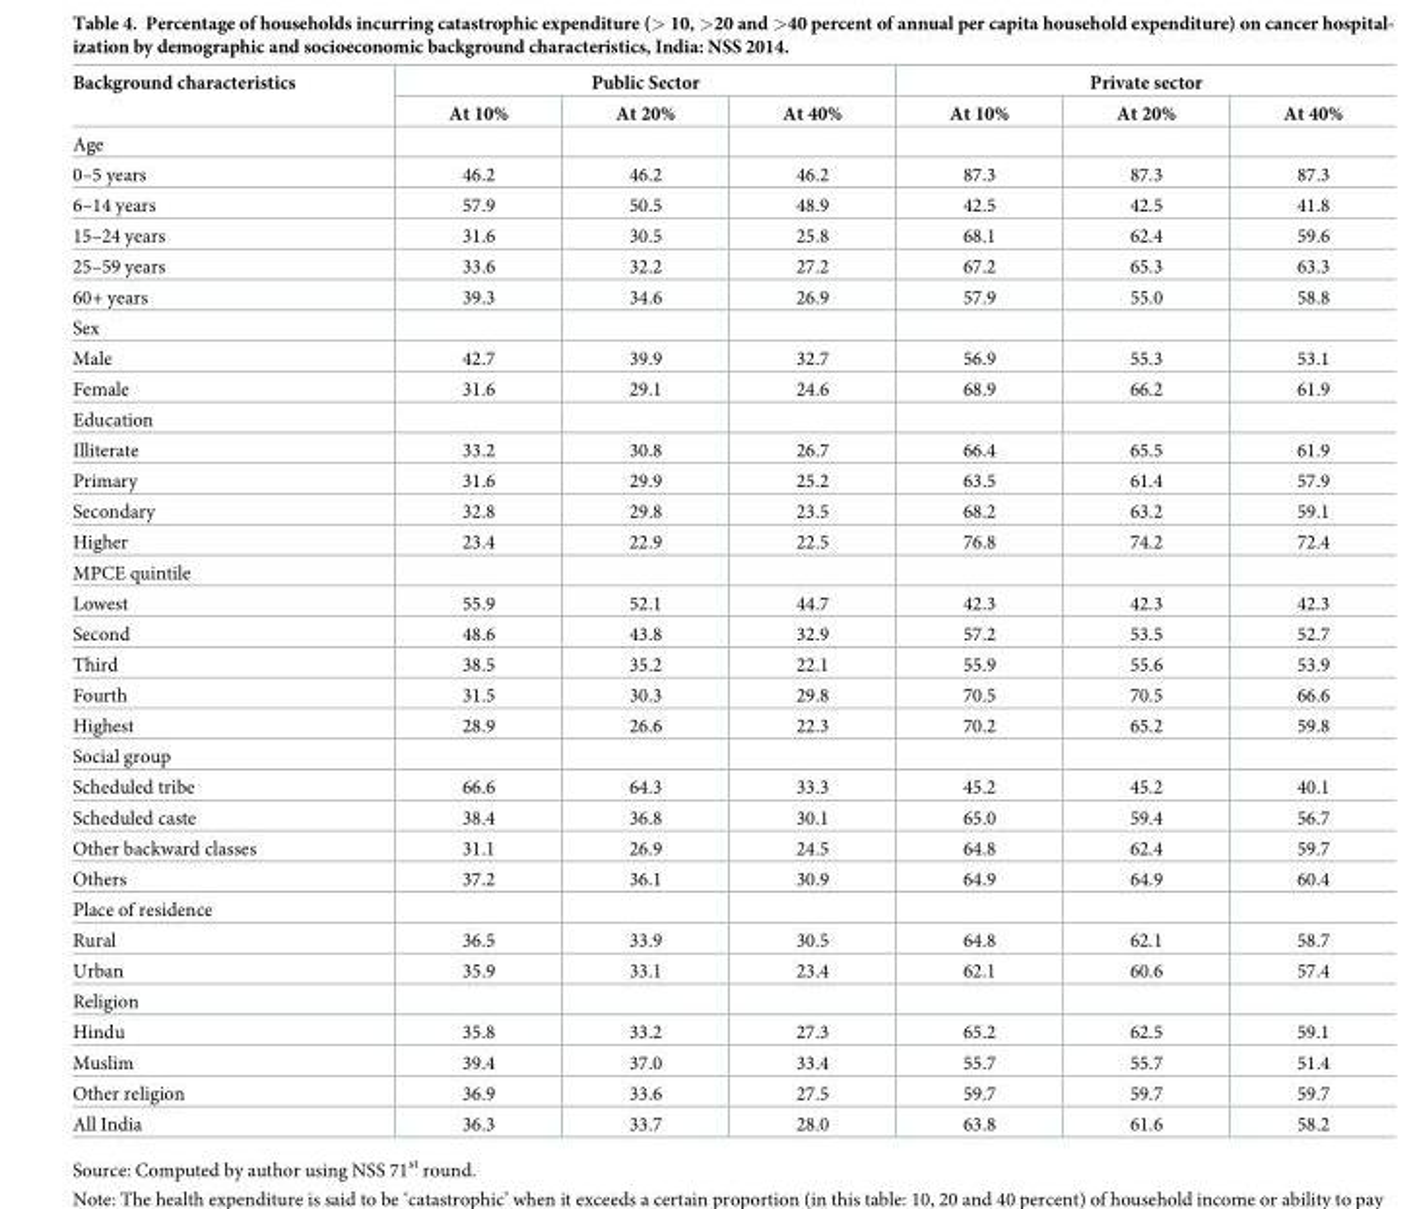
<table><thead><tr><td rowspan="2">Background characteristics</td><td colspan="3">Public Sector</td><td colspan="3">Private sector</td></tr><tr><td>At 10%</td><td>At 20%</td><td>At 40%</td><td>At 10%</td><td>At 20%</td><td>At 40%</td></tr></thead><tbody><tr><td colspan="7">Age</td></tr><tr><td>0–5 years</td><td>46.2</td><td>46.2</td><td>46.2</td><td>87.3</td><td>87.3</td><td>87.3</td></tr><tr><td>6–14 years</td><td>57.9</td><td>50.5</td><td>48.9</td><td>42.5</td><td>42.5</td><td>41.8</td></tr><tr><td>15–24 years</td><td>31.6</td><td>30.5</td><td>25.8</td><td>68.1</td><td>62.4</td><td>59.6</td></tr><tr><td>25–59 years</td><td>33.6</td><td>32.2</td><td>27.2</td><td>67.2</td><td>65.3</td><td>63.3</td></tr><tr><td>60+ years</td><td>39.3</td><td>34.6</td><td>26.9</td><td>57.9</td><td>55.0</td><td>58.8</td></tr><tr><td colspan="7">Sex</td></tr><tr><td>Male</td><td>42.7</td><td>39.9</td><td>32.7</td><td>56.9</td><td>55.3</td><td>53.1</td></tr><tr><td>Female</td><td>31.6</td><td>29.1</td><td>24.6</td><td>68.9</td><td>66.2</td><td>61.9</td></tr><tr><td colspan="7">Education</td></tr><tr><td>Illiterate</td><td>33.2</td><td>30.8</td><td>26.7</td><td>66.4</td><td>65.5</td><td>61.9</td></tr><tr><td>Primary</td><td>31.6</td><td>29.9</td><td>25.2</td><td>63.5</td><td>61.4</td><td>57.9</td></tr><tr><td>Secondary</td><td>32.8</td><td>29.8</td><td>23.5</td><td>68.2</td><td>63.2</td><td>59.1</td></tr><tr><td>Higher</td><td>23.4</td><td>22.9</td><td>22.5</td><td>76.8</td><td>74.2</td><td>72.4</td></tr><tr><td colspan="7">MPCE quintile</td></tr><tr><td>Lowest</td><td>55.9</td><td>52.1</td><td>44.7</td><td>42.3</td><td>42.3</td><td>42.3</td></tr><tr><td>Second</td><td>48.6</td><td>43.8</td><td>32.9</td><td>57.2</td><td>53.5</td><td>52.7</td></tr><tr><td>Third</td><td>38.5</td><td>35.2</td><td>22.1</td><td>55.9</td><td>55.6</td><td>53.9</td></tr><tr><td>Fourth</td><td>31.5</td><td>30.3</td><td>29.8</td><td>70.5</td><td>70.5</td><td>66.6</td></tr><tr><td>Highest</td><td>28.9</td><td>26.6</td><td>22.3</td><td>70.2</td><td>65.2</td><td>59.8</td></tr><tr><td colspan="7">Social group</td></tr><tr><td>Scheduled tribe</td><td>66.6</td><td>64.3</td><td>33.3</td><td>45.2</td><td>45.2</td><td>40.1</td></tr><tr><td>Scheduled caste</td><td>38.4</td><td>36.8</td><td>30.1</td><td>65.0</td><td>59.4</td><td>56.7</td></tr><tr><td>Other backward classes</td><td>31.1</td><td>26.9</td><td>24.5</td><td>64.8</td><td>62.4</td><td>59.7</td></tr><tr><td>Others</td><td>37.2</td><td>36.1</td><td>30.9</td><td>64.9</td><td>64.9</td><td>60.4</td></tr><tr><td colspan="7">Place of residence</td></tr><tr><td>Rural</td><td>36.5</td><td>33.9</td><td>30.5</td><td>64.8</td><td>62.1</td><td>58.7</td></tr><tr><td>Urban</td><td>35.9</td><td>33.1</td><td>23.4</td><td>62.1</td><td>60.6</td><td>57.4</td></tr><tr><td colspan="7">Religion</td></tr><tr><td>Hindu</td><td>35.8</td><td>33.2</td><td>27.3</td><td>65.2</td><td>62.5</td><td>59.1</td></tr><tr><td>Muslim</td><td>39.4</td><td>37.0</td><td>33.4</td><td>55.7</td><td>55.7</td><td>51.4</td></tr><tr><td>Other religion</td><td>36.9</td><td>33.6</td><td>27.5</td><td>59.7</td><td>59.7</td><td>59.7</td></tr><tr><td>All India</td><td>36.3</td><td>33.7</td><td>28.0</td><td>63.8</td><td>61.6</td><td>58.2</td></tr></tbody></table>